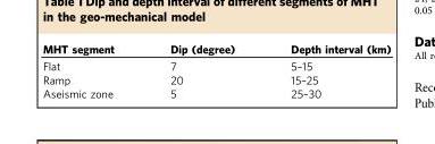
<table><thead><tr><td>MHT segment</td><td>Dip (degree)</td><td>Depth interval (km)</td></tr></thead><tbody><tr><td>Flat</td><td>7</td><td>5–15</td></tr><tr><td>Ramp</td><td>20</td><td>15–25</td></tr><tr><td>Aseismic zone</td><td>5</td><td>25–30</td></tr></tbody></table>